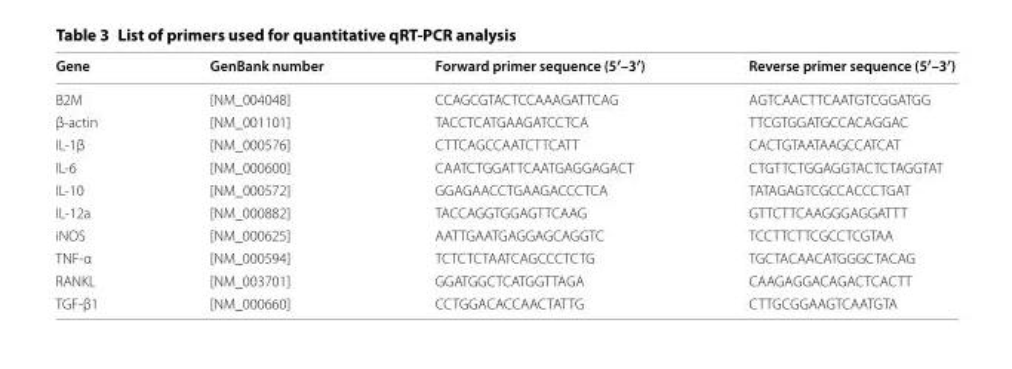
<table><thead><tr><td>Gene</td><td>GenBank number</td><td>Forward primer sequence (5′–3′)</td><td>Reverse primer sequence (5′–3′)</td></tr></thead><tbody><tr><td>B2M</td><td>[NM_004048]</td><td>CCAGCGTACTCCAAAGATTCAG</td><td>AGTCAACTTCAATGTCGGATGG</td></tr><tr><td>β‑actin</td><td>[NM_001101]</td><td>TACCTCATGAAGATCCTCA</td><td>TTCGTGGATGCCACAGGAC</td></tr><tr><td>IL‑1β</td><td>[NM_000576]</td><td>CTTCAGCCAATCTTCATT</td><td>CACTGTAATAAGCCATCAT</td></tr><tr><td>IL‑6</td><td>[NM_000600]</td><td>CAATCTGGATTCAATGAGGAGACT</td><td>CTGTTCTGGAGGTACTCTAGGTAT</td></tr><tr><td>IL‑10</td><td>[NM_000572]</td><td>GGAGAACCTGAAGACCCTCA</td><td>TATAGAGTCGCCACCCTGAT</td></tr><tr><td>IL‑12a</td><td>[NM_000882]</td><td>TACCAGGTGGAGTTCAAG</td><td>GTTCTTCAAGGGAGGATTT</td></tr><tr><td>iNOS</td><td>[NM_000625]</td><td>AATTGAATGAGGAGCAGGTC</td><td>TCCTTCTTCGCCTCGTAA</td></tr><tr><td>TNF‑α</td><td>[NM_000594]</td><td>TCTCTCTAATCAGCCCTCTG</td><td>TGCTACAACATGGGCTACAG</td></tr><tr><td>RANKL</td><td>[NM_003701]</td><td>GGATGGCTCATGGTTAGA</td><td>CAAGAGGACAGACTCACTT</td></tr><tr><td>TGF‑β1</td><td>[NM_000660]</td><td>CCTGGACACCAACTATTG</td><td>CTTGCGGAAGTCAATGTA</td></tr></tbody></table>